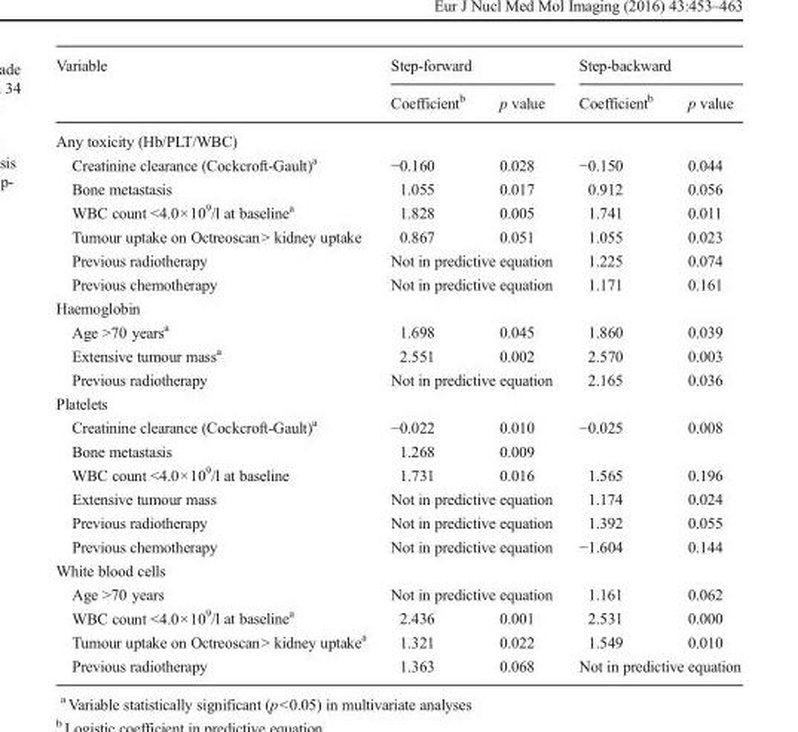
<table><thead><tr><td rowspan="2">Variable</td><td colspan="2">Step-forward</td><td colspan="2">Step-backward</td></tr><tr><td>Coefficient<sup>b</sup></td><td>p value</td><td>Coefficient<sup>b</sup></td><td>p value</td></tr></thead><tbody><tr><td colspan="5">Any toxicity (Hb/PLT/WBC)</td></tr><tr><td>Creatinine clearance (Cockcroft-Gault)<sup>a</sup></td><td>−0.160</td><td>0.028</td><td>−0.150</td><td>0.044</td></tr><tr><td>Bone metastasis</td><td>1.055</td><td>0.017</td><td>0.912</td><td>0.056</td></tr><tr><td>WBC count &lt;4.0×10<sup>9</sup>/l at baseline<sup>a</sup></td><td>1.828</td><td>0.005</td><td>1.741</td><td>0.011</td></tr><tr><td>Tumour uptake on Octreoscan&gt; kidney uptake</td><td>0.867</td><td>0.051</td><td>1.055</td><td>0.023</td></tr><tr><td>Previous radiotherapy</td><td colspan="2">Not in predictive equation</td><td>1.225</td><td>0.074</td></tr><tr><td>Previous chemotherapy</td><td colspan="2">Not in predictive equation</td><td>1.171</td><td>0.161</td></tr><tr><td colspan="5">Haemoglobin</td></tr><tr><td>Age &gt;70 years<sup>a</sup></td><td>1.698</td><td>0.045</td><td>1.860</td><td>0.039</td></tr><tr><td>Extensive tumour mass<sup>a</sup></td><td>2.551</td><td>0.002</td><td>2.570</td><td>0.003</td></tr><tr><td>Previous radiotherapy</td><td colspan="2">Not in predictive equation</td><td>2.165</td><td>0.036</td></tr><tr><td colspan="5">Platelets</td></tr><tr><td>Creatinine clearance (Cockcroft-Gault)<sup>a</sup></td><td>−0.022</td><td>0.010</td><td>−0.025</td><td>0.008</td></tr><tr><td>Bone metastasis</td><td>1.268</td><td>0.009</td><td></td><td></td></tr><tr><td>WBC count &lt;4.0×10<sup>9</sup>/l at baseline</td><td>1.731</td><td>0.016</td><td>1.565</td><td>0.196</td></tr><tr><td>Extensive tumour mass</td><td colspan="2">Not in predictive equation</td><td>1.174</td><td>0.024</td></tr><tr><td>Previous radiotherapy</td><td colspan="2">Not in predictive equation</td><td>1.392</td><td>0.055</td></tr><tr><td>Previous chemotherapy</td><td colspan="2">Not in predictive equation</td><td>−1.604</td><td>0.144</td></tr><tr><td colspan="5">White blood cells</td></tr><tr><td>Age &gt;70 years</td><td colspan="2">Not in predictive equation</td><td>1.161</td><td>0.062</td></tr><tr><td>WBC count &lt;4.0×10<sup>9</sup>/l at baseline<sup>a</sup></td><td>2.436</td><td>0.001</td><td>2.531</td><td>0.000</td></tr><tr><td>Tumour uptake on Octreoscan&gt; kidney uptake<sup>a</sup></td><td>1.321</td><td>0.022</td><td>1.549</td><td>0.010</td></tr><tr><td>Previous radiotherapy</td><td>1.363</td><td>0.068</td><td colspan="2">Not in predictive equation</td></tr></tbody></table>